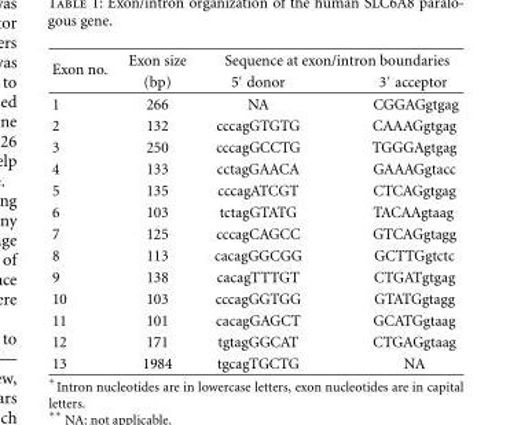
<table><thead><tr><td rowspan="2">Exon no.</td><td rowspan="2">Exon size (bp)</td><td colspan="2">Sequence at exon/intron boundaries</td></tr><tr><td>5′ donor</td><td>3′ acceptor</td></tr></thead><tbody><tr><td>1</td><td>266</td><td>NA</td><td>CGGAGgtgag</td></tr><tr><td>2</td><td>132</td><td>cccagGTGTG</td><td>CAAAGgtgag</td></tr><tr><td>3</td><td>250</td><td>cccagGCCTG</td><td>TGGGAgtgag</td></tr><tr><td>4</td><td>133</td><td>cctagGAACA</td><td>GAAAGgtacc</td></tr><tr><td>5</td><td>135</td><td>cccagATCGT</td><td>CTCAGgtgag</td></tr><tr><td>6</td><td>103</td><td>tctagGTATG</td><td>TACAAgtaag</td></tr><tr><td>7</td><td>125</td><td>cccagCAGCC</td><td>GTCAGgtagg</td></tr><tr><td>8</td><td>113</td><td>cacagGGCGG</td><td>GCTTGgtctc</td></tr><tr><td>9</td><td>138</td><td>cacagTTTGT</td><td>CTGATgtgag</td></tr><tr><td>10</td><td>103</td><td>cccagGGTGG</td><td>GTATGgtagg</td></tr><tr><td>11</td><td>101</td><td>cacagGAGCT</td><td>GCATGgtaag</td></tr><tr><td>12</td><td>171</td><td>tgtagGGCAT</td><td>CTGAGgtaag</td></tr><tr><td>13</td><td>1984</td><td>tgcagTGCTG</td><td>NA</td></tr></tbody></table>